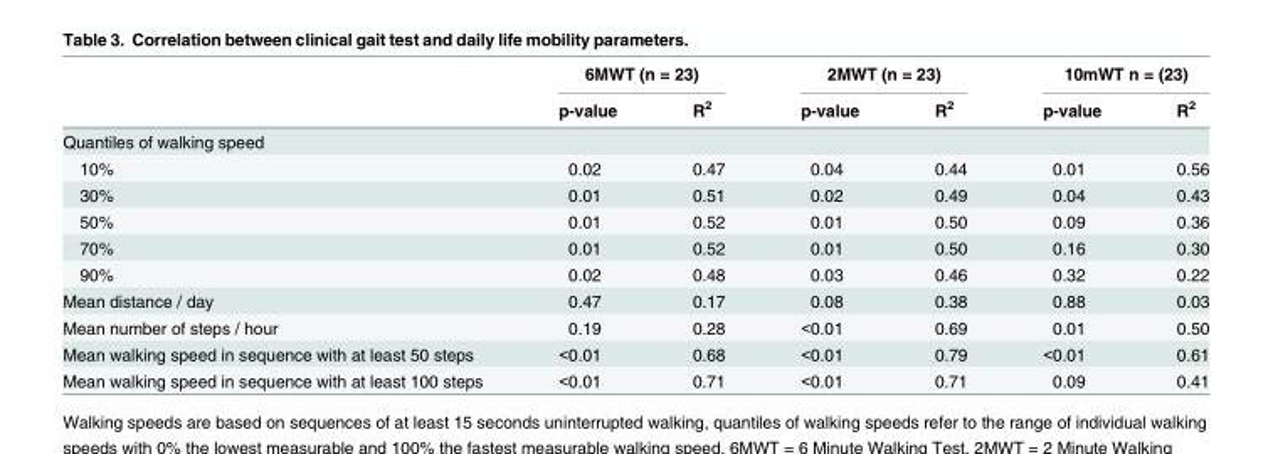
<table><thead><tr><td rowspan="2"></td><td colspan="2">6MWT (n = 23)</td><td colspan="2">2MWT (n = 23)</td><td colspan="2">10mWT n = (23)</td></tr><tr><td>p-value</td><td>R<sup>2</sup></td><td>p-value</td><td>R<sup>2</sup></td><td>p-value</td><td>R<sup>2</sup></td></tr></thead><tbody><tr><td colspan="7">Quantiles of walking speed</td></tr><tr><td>10%</td><td>0.02</td><td>0.47</td><td>0.04</td><td>0.44</td><td>0.01</td><td>0.56</td></tr><tr><td>30%</td><td>0.01</td><td>0.51</td><td>0.02</td><td>0.49</td><td>0.04</td><td>0.43</td></tr><tr><td>50%</td><td>0.01</td><td>0.52</td><td>0.01</td><td>0.50</td><td>0.09</td><td>0.36</td></tr><tr><td>70%</td><td>0.01</td><td>0.52</td><td>0.01</td><td>0.50</td><td>0.16</td><td>0.30</td></tr><tr><td>90%</td><td>0.02</td><td>0.48</td><td>0.03</td><td>0.46</td><td>0.32</td><td>0.22</td></tr><tr><td>Mean distance / day</td><td>0.47</td><td>0.17</td><td>0.08</td><td>0.38</td><td>0.88</td><td>0.03</td></tr><tr><td>Mean number of steps / hour</td><td>0.19</td><td>0.28</td><td>&lt;0.01</td><td>0.69</td><td>0.01</td><td>0.50</td></tr><tr><td>Mean walking speed in sequence with at least 50 steps</td><td>&lt;0.01</td><td>0.68</td><td>&lt;0.01</td><td>0.79</td><td>&lt;0.01</td><td>0.61</td></tr><tr><td>Mean walking speed in sequence with at least 100 steps</td><td>&lt;0.01</td><td>0.71</td><td>&lt;0.01</td><td>0.71</td><td>0.09</td><td>0.41</td></tr></tbody></table>